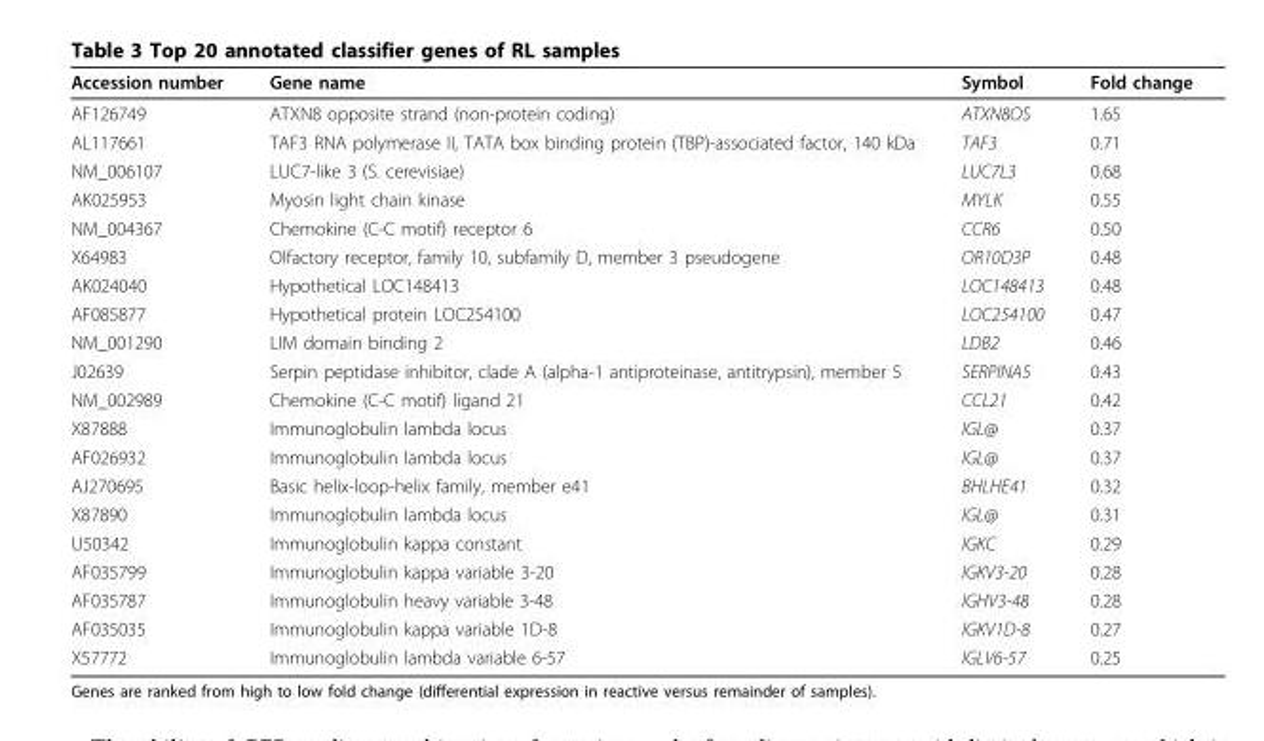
<table><thead><tr><td>Accession number</td><td>Gene name</td><td>Symbol</td><td>Fold change</td></tr></thead><tbody><tr><td>AF126749</td><td>ATXN8 opposite strand (non-protein coding)</td><td>ATXN8OS</td><td>1.65</td></tr><tr><td>AL117661</td><td>TAF3 RNA polymerase II, TATA box binding protein (TBP)-associated factor, 140 kDa</td><td>TAF3</td><td>0.71</td></tr><tr><td>NM_006107</td><td>LUC7-like 3 (S. cerevisiae)</td><td>LUC7L3</td><td>0.68</td></tr><tr><td>AK025953</td><td>Myosin light chain kinase</td><td>MYLK</td><td>0.55</td></tr><tr><td>NM_004367</td><td>Chemokine (C-C motif) receptor 6</td><td>CCR6</td><td>0.50</td></tr><tr><td>X64983</td><td>Olfactory receptor, family 10, subfamily D, member 3 pseudogene</td><td>OR10D3P</td><td>0.48</td></tr><tr><td>AK024040</td><td>Hypothetical LOC148413</td><td>LOC148413</td><td>0.48</td></tr><tr><td>AF085877</td><td>Hypothetical protein LOC254100</td><td>LOC254100</td><td>0.47</td></tr><tr><td>NM_001290</td><td>LIM domain binding 2</td><td>LDB2</td><td>0.46</td></tr><tr><td>J02639</td><td>Serpin peptidase inhibitor, clade A (alpha-1 antiproteinase, antitrypsin), member 5</td><td>SERPINA5</td><td>0.43</td></tr><tr><td>NM_002989</td><td>Chemokine (C-C motif) ligand 21</td><td>CCL21</td><td>0.42</td></tr><tr><td>X87888</td><td>Immunoglobulin lambda locus</td><td>IGL@</td><td>0.37</td></tr><tr><td>AF026932</td><td>Immunoglobulin lambda locus</td><td>IGL@</td><td>0.37</td></tr><tr><td>AJ270695</td><td>Basic helix-loop-helix family, member e41</td><td>BHLHE41</td><td>0.32</td></tr><tr><td>X87890</td><td>Immunoglobulin lambda locus</td><td>IGL@</td><td>0.31</td></tr><tr><td>U50342</td><td>Immunoglobulin kappa constant</td><td>IGKC</td><td>0.29</td></tr><tr><td>AF035799</td><td>Immunoglobulin kappa variable 3-20</td><td>IGKV3-20</td><td>0.28</td></tr><tr><td>AF035787</td><td>Immunoglobulin heavy variable 3-48</td><td>IGHV3-48</td><td>0.28</td></tr><tr><td>AF035035</td><td>Immunoglobulin kappa variable 1D-8</td><td>IGKV1D-8</td><td>0.27</td></tr><tr><td>X57772</td><td>Immunoglobulin lambda variable 6-57</td><td>IGLV6-57</td><td>0.25</td></tr></tbody></table>